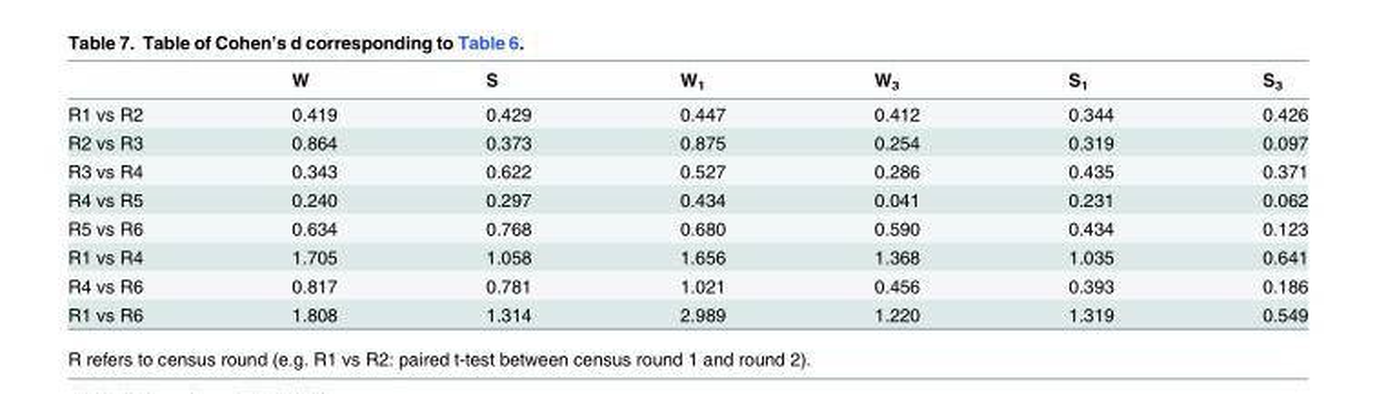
<table><thead><tr><td></td><td>W</td><td>S</td><td>W<sub>1</sub></td><td>W<sub>3</sub></td><td>S<sub>1</sub></td><td>S<sub>3</sub></td></tr></thead><tbody><tr><td>R1 vs R2</td><td>0.419</td><td>0.429</td><td>0.447</td><td>0.412</td><td>0.344</td><td>0.426</td></tr><tr><td>R2 vs R3</td><td>0.864</td><td>0.373</td><td>0.875</td><td>0.254</td><td>0.319</td><td>0.097</td></tr><tr><td>R3 vs R4</td><td>0.343</td><td>0.622</td><td>0.527</td><td>0.286</td><td>0.435</td><td>0.371</td></tr><tr><td>R4 vs R5</td><td>0.240</td><td>0.297</td><td>0.434</td><td>0.041</td><td>0.231</td><td>0.062</td></tr><tr><td>R5 vs R6</td><td>0.634</td><td>0.768</td><td>0.680</td><td>0.590</td><td>0.434</td><td>0.123</td></tr><tr><td>R1 vs R4</td><td>1.705</td><td>1.058</td><td>1.656</td><td>1.368</td><td>1.035</td><td>0.641</td></tr><tr><td>R4 vs R6</td><td>0.817</td><td>0.781</td><td>1.021</td><td>0.456</td><td>0.393</td><td>0.186</td></tr><tr><td>R1 vs R6</td><td>1.808</td><td>1.314</td><td>2.989</td><td>1.220</td><td>1.319</td><td>0.549</td></tr></tbody></table>